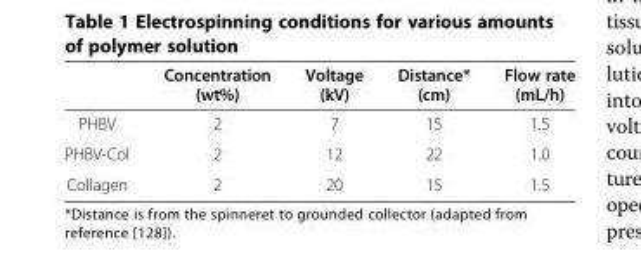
<table><thead><tr><td></td><td>Concentration (wt%)</td><td>Voltage (kV)</td><td>Distance* (cm)</td><td>Flow rate (mL/h)</td></tr></thead><tbody><tr><td>PHBV</td><td>2</td><td>7</td><td>15</td><td>1.5</td></tr><tr><td>PHBV-Col</td><td>2</td><td>12</td><td>22</td><td>1.0</td></tr><tr><td>Collagen</td><td>2</td><td>20</td><td>15</td><td>1.5</td></tr></tbody></table>